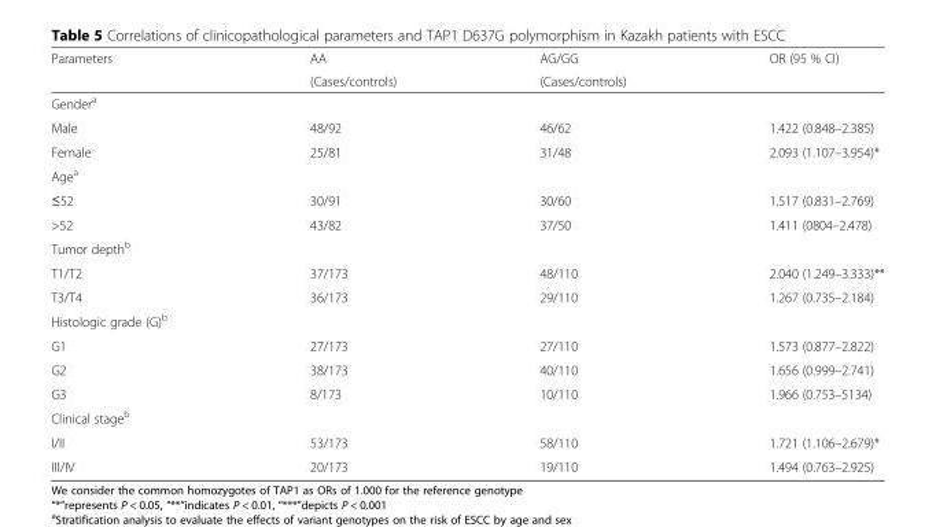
<table><thead><tr><td rowspan="2">Parameters</td><td rowspan="2">AA (Cases/controls)</td><td rowspan="2">AG/GG (Cases/controls)</td><td rowspan="2">OR (95 % CI)</td></tr><tr></tr></thead><tbody><tr><td colspan="4">Gender<sup>a</sup></td></tr><tr><td>Male</td><td>48/92</td><td>46/62</td><td>1.422 (0.848–2.385)</td></tr><tr><td>Female</td><td>25/81</td><td>31/48</td><td>2.093 (1.107–3.954)*</td></tr><tr><td colspan="4">Age<sup>a</sup></td></tr><tr><td>≤52</td><td>30/91</td><td>30/60</td><td>1.517 (0.831–2.769)</td></tr><tr><td>&gt;52</td><td>43/82</td><td>37/50</td><td>1.411 (0804–2.478)</td></tr><tr><td colspan="4">Tumor depth<sup>b</sup></td></tr><tr><td>T1/T2</td><td>37/173</td><td>48/110</td><td>2.040 (1.249–3.333)**</td></tr><tr><td>T3/T4</td><td>36/173</td><td>29/110</td><td>1.267 (0.735–2.184)</td></tr><tr><td colspan="4">Histologic grade (G)<sup>b</sup></td></tr><tr><td>G1</td><td>27/173</td><td>27/110</td><td>1.573 (0.877–2.822)</td></tr><tr><td>G2</td><td>38/173</td><td>40/110</td><td>1.656 (0.999–2.741)</td></tr><tr><td>G3</td><td>8/173</td><td>10/110</td><td>1.966 (0.753–5134)</td></tr><tr><td colspan="4">Clinical stage<sup>b</sup></td></tr><tr><td>I/II</td><td>53/173</td><td>58/110</td><td>1.721 (1.106–2.679)*</td></tr><tr><td>III/IV</td><td>20/173</td><td>19/110</td><td>1.494 (0.763–2.925)</td></tr></tbody></table>